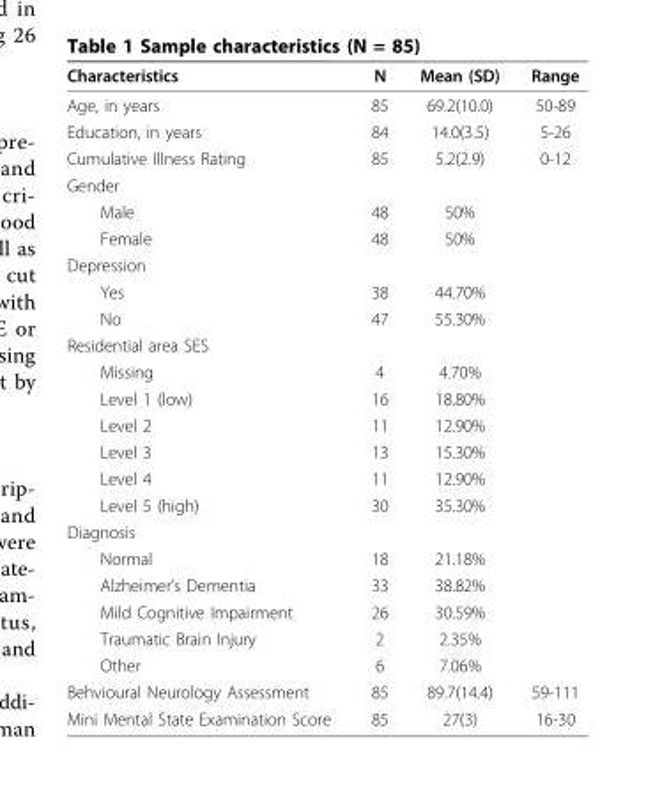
<table><thead><tr><td>Characteristics</td><td>N</td><td>Mean (SD)</td><td>Range</td></tr></thead><tbody><tr><td>Age, in years</td><td>85</td><td>69.2(10.0)</td><td>50-89</td></tr><tr><td>Education, in years</td><td>84</td><td>14.0(3.5)</td><td>5-26</td></tr><tr><td>Cumulative Illness Rating</td><td>85</td><td>5.2(2.9)</td><td>0-12</td></tr><tr><td colspan="4">Gender</td></tr><tr><td>Male</td><td>48</td><td>50%</td><td></td></tr><tr><td>Female</td><td>48</td><td>50%</td><td></td></tr><tr><td colspan="4">Depression</td></tr><tr><td>Yes</td><td>38</td><td>44.70%</td><td></td></tr><tr><td>No</td><td>47</td><td>55.30%</td><td></td></tr><tr><td colspan="4">Residential area SES</td></tr><tr><td>Missing</td><td>4</td><td>4.70%</td><td></td></tr><tr><td>Level 1 (low)</td><td>16</td><td>18.80%</td><td></td></tr><tr><td>Level 2</td><td>11</td><td>12.90%</td><td></td></tr><tr><td>Level 3</td><td>13</td><td>15.30%</td><td></td></tr><tr><td>Level 4</td><td>11</td><td>12.90%</td><td></td></tr><tr><td>Level 5 (high)</td><td>30</td><td>35.30%</td><td></td></tr><tr><td colspan="4">Diagnosis</td></tr><tr><td>Normal</td><td>18</td><td>21.18%</td><td></td></tr><tr><td>Alzheimer’s Dementia</td><td>33</td><td>38.82%</td><td></td></tr><tr><td>Mild Cognitive Impairment</td><td>26</td><td>30.59%</td><td></td></tr><tr><td>Traumatic Brain Injury</td><td>2</td><td>2.35%</td><td></td></tr><tr><td>Other</td><td>6</td><td>7.06%</td><td></td></tr><tr><td>Behvioural Neurology Assessment</td><td>85</td><td>89.7(14.4)</td><td>59-111</td></tr><tr><td>Mini Mental State Examination Score</td><td>85</td><td>27(3)</td><td>16-30</td></tr></tbody></table>